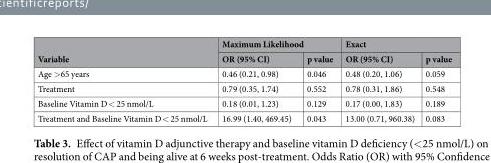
<table><thead><tr><td rowspan="2">Variable</td><td colspan="2">Maximum Likelihood</td><td colspan="2">Exact</td></tr><tr><td>OR (95% CI)</td><td>p value</td><td>OR (95% CI)</td><td>p value</td></tr></thead><tbody><tr><td>Age &gt;65 years</td><td>0.46 (0.21, 0.98)</td><td>0.046</td><td>0.48 (0.20, 1.06)</td><td>0.059</td></tr><tr><td>Treatment</td><td>0.79 (0.35, 1.74)</td><td>0.552</td><td>0.78 (0.31, 1.86)</td><td>0.548</td></tr><tr><td>Baseline Vitamin D &lt; 25 nmol/L</td><td>0.18 (0.01, 1.23)</td><td>0.129</td><td>0.17 (0.00, 1.83)</td><td>0.189</td></tr><tr><td>Treatment and Baseline Vitamin D &lt; 25 nmol/L</td><td>16.99 (1.40, 469.45)</td><td>0.043</td><td>13.00 (0.71, 960.38)</td><td>0.083</td></tr></tbody></table>